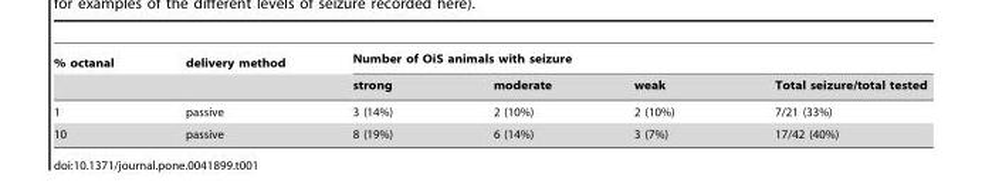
<table><thead><tr><td rowspan="2">% octanal</td><td rowspan="2">delivery method</td><td colspan="4">Number of OiS animals with seizure</td></tr><tr><td>strong</td><td>moderate</td><td>weak</td><td>Total seizure/total tested</td></tr></thead><tbody><tr><td>1</td><td>passive</td><td>3 (14%)</td><td>2 (10%)</td><td>2 (10%)</td><td>7/21 (33%)</td></tr><tr><td>10</td><td>passive</td><td>8 (19%)</td><td>6 (14%)</td><td>3 (7%)</td><td>17/42 (40%)</td></tr></tbody></table>